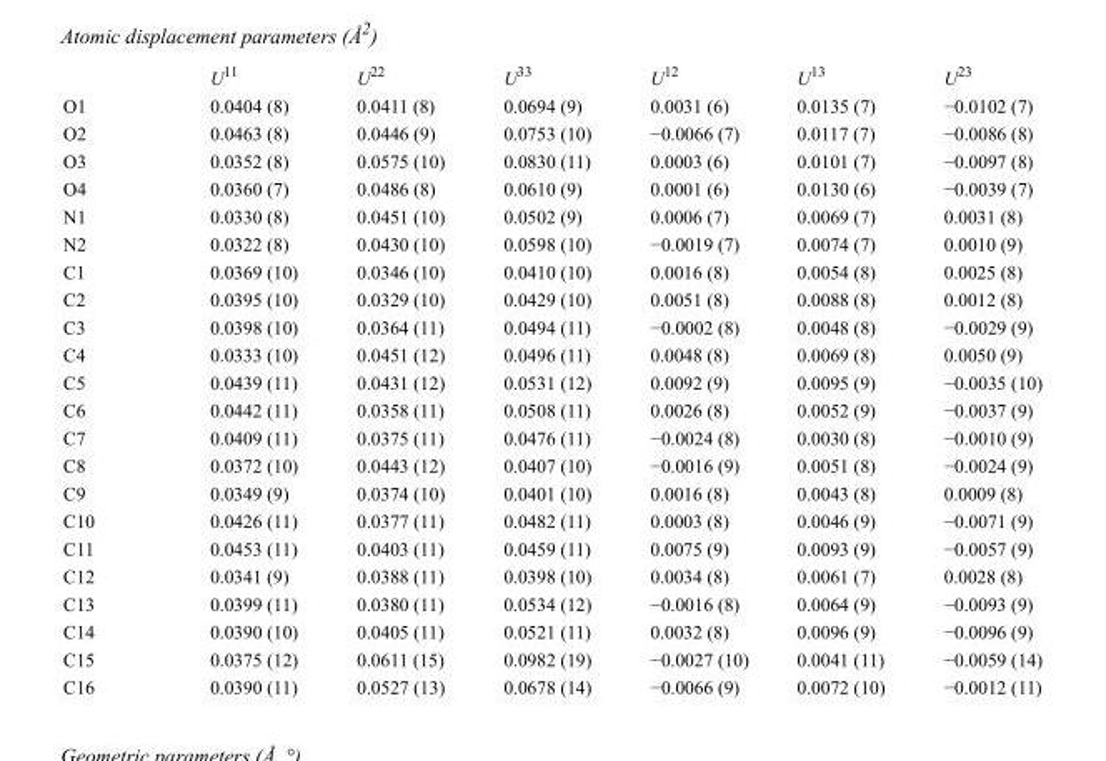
<table><thead><tr><td></td><td>U<sup>11</sup></td><td>U<sup>22</sup></td><td>U<sup>33</sup></td><td>U<sup>12</sup></td><td>U<sup>13</sup></td><td>U<sup>23</sup></td></tr></thead><tbody><tr><td>O1</td><td>0.0404 (8)</td><td>0.0411 (8)</td><td>0.0694 (9)</td><td>0.0031 (6)</td><td>0.0135 (7)</td><td>−0.0102 (7)</td></tr><tr><td>O2</td><td>0.0463 (8)</td><td>0.0446 (9)</td><td>0.0753 (10)</td><td>−0.0066 (7)</td><td>0.0117 (7)</td><td>−0.0086 (8)</td></tr><tr><td>O3</td><td>0.0352 (8)</td><td>0.0575 (10)</td><td>0.0830 (11)</td><td>0.0003 (6)</td><td>0.0101 (7)</td><td>−0.0097 (8)</td></tr><tr><td>O4</td><td>0.0360 (7)</td><td>0.0486 (8)</td><td>0.0610 (9)</td><td>0.0001 (6)</td><td>0.0130 (6)</td><td>−0.0039 (7)</td></tr><tr><td>N1</td><td>0.0330 (8)</td><td>0.0451 (10)</td><td>0.0502 (9)</td><td>0.0006 (7)</td><td>0.0069 (7)</td><td>0.0031 (8)</td></tr><tr><td>N2</td><td>0.0322 (8)</td><td>0.0430 (10)</td><td>0.0598 (10)</td><td>−0.0019 (7)</td><td>0.0074 (7)</td><td>0.0010 (9)</td></tr><tr><td>C1</td><td>0.0369 (10)</td><td>0.0346 (10)</td><td>0.0410 (10)</td><td>0.0016 (8)</td><td>0.0054 (8)</td><td>0.0025 (8)</td></tr><tr><td>C2</td><td>0.0395 (10)</td><td>0.0329 (10)</td><td>0.0429 (10)</td><td>0.0051 (8)</td><td>0.0088 (8)</td><td>0.0012 (8)</td></tr><tr><td>C3</td><td>0.0398 (10)</td><td>0.0364 (11)</td><td>0.0494 (11)</td><td>−0.0002 (8)</td><td>0.0048 (8)</td><td>−0.0029 (9)</td></tr><tr><td>C4</td><td>0.0333 (10)</td><td>0.0451 (12)</td><td>0.0496 (11)</td><td>0.0048 (8)</td><td>0.0069 (8)</td><td>0.0050 (9)</td></tr><tr><td>C5</td><td>0.0439 (11)</td><td>0.0431 (12)</td><td>0.0531 (12)</td><td>0.0092 (9)</td><td>0.0095 (9)</td><td>−0.0035 (10)</td></tr><tr><td>C6</td><td>0.0442 (11)</td><td>0.0358 (11)</td><td>0.0508 (11)</td><td>0.0026 (8)</td><td>0.0052 (9)</td><td>−0.0037 (9)</td></tr><tr><td>C7</td><td>0.0409 (11)</td><td>0.0375 (11)</td><td>0.0476 (11)</td><td>−0.0024 (8)</td><td>0.0030 (8)</td><td>−0.0010 (9)</td></tr><tr><td>C8</td><td>0.0372 (10)</td><td>0.0443 (12)</td><td>0.0407 (10)</td><td>−0.0016 (9)</td><td>0.0051 (8)</td><td>−0.0024 (9)</td></tr><tr><td>C9</td><td>0.0349 (9)</td><td>0.0374 (10)</td><td>0.0401 (10)</td><td>0.0016 (8)</td><td>0.0043 (8)</td><td>0.0009 (8)</td></tr><tr><td>C10</td><td>0.0426 (11)</td><td>0.0377 (11)</td><td>0.0482 (11)</td><td>0.0003 (8)</td><td>0.0046 (9)</td><td>−0.0071 (9)</td></tr><tr><td>C11</td><td>0.0453 (11)</td><td>0.0403 (11)</td><td>0.0459 (11)</td><td>0.0075 (9)</td><td>0.0093 (9)</td><td>−0.0057 (9)</td></tr><tr><td>C12</td><td>0.0341 (9)</td><td>0.0388 (11)</td><td>0.0398 (10)</td><td>0.0034 (8)</td><td>0.0061 (7)</td><td>0.0028 (8)</td></tr><tr><td>C13</td><td>0.0399 (11)</td><td>0.0380 (11)</td><td>0.0534 (12)</td><td>−0.0016 (8)</td><td>0.0064 (9)</td><td>−0.0093 (9)</td></tr><tr><td>C14</td><td>0.0390 (10)</td><td>0.0405 (11)</td><td>0.0521 (11)</td><td>0.0032 (8)</td><td>0.0096 (9)</td><td>−0.0096 (9)</td></tr><tr><td>C15</td><td>0.0375 (12)</td><td>0.0611 (15)</td><td>0.0982 (19)</td><td>−0.0027 (10)</td><td>0.0041 (11)</td><td>−0.0059 (14)</td></tr><tr><td>C16</td><td>0.0390 (11)</td><td>0.0527 (13)</td><td>0.0678 (14)</td><td>−0.0066 (9)</td><td>0.0072 (10)</td><td>−0.0012 (11)</td></tr></tbody></table>